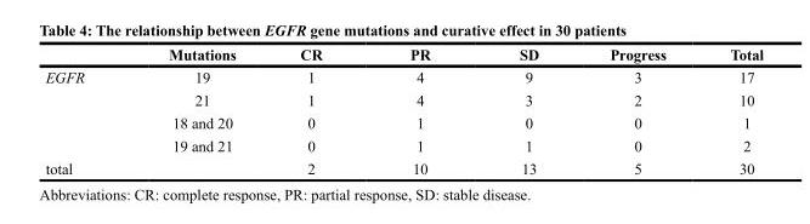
<table><thead><tr><td></td><td>Mutations</td><td>CR</td><td>PR</td><td>SD</td><td>Progress</td><td>Total</td></tr></thead><tbody><tr><td rowspan="4">EGFR</td><td>19</td><td>1</td><td>4</td><td>9</td><td>3</td><td>17</td></tr><tr><td>21</td><td>1</td><td>4</td><td>3</td><td>2</td><td>10</td></tr><tr><td>18 and 20</td><td>0</td><td>1</td><td>0</td><td>0</td><td>1</td></tr><tr><td>19 and 21</td><td>0</td><td>1</td><td>1</td><td>0</td><td>2</td></tr><tr><td>total</td><td></td><td>2</td><td>10</td><td>13</td><td>5</td><td>30</td></tr></tbody></table>